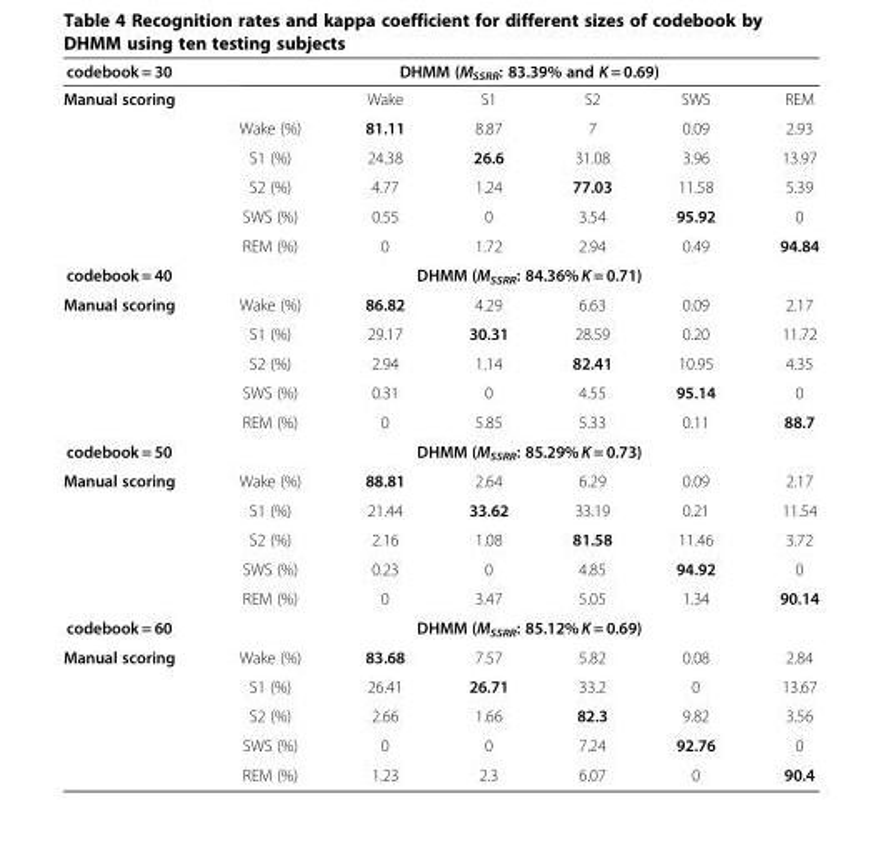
<table><thead><tr><td rowspan="2">codebook = 30 Manual scoring</td><td colspan="6">DHMM (M<sub>SSRR</sub>: 83.39% and K = 0.69)</td></tr><tr><td></td><td>Wake</td><td>S1</td><td>S2</td><td>SWS</td><td>REM</td></tr></thead><tbody><tr><td></td><td>Wake (%)</td><td>81.11</td><td>8.87</td><td>7</td><td>0.09</td><td>2.93</td></tr><tr><td></td><td>S1 (%)</td><td>24.38</td><td>26.6</td><td>31.08</td><td>3.96</td><td>13.97</td></tr><tr><td></td><td>S2 (%)</td><td>4.77</td><td>1.24</td><td>77.03</td><td>11.58</td><td>5.39</td></tr><tr><td></td><td>SWS (%)</td><td>0.55</td><td>0</td><td>3.54</td><td>95.92</td><td>0</td></tr><tr><td></td><td>REM (%)</td><td>0</td><td>1.72</td><td>2.94</td><td>0.49</td><td>94.84</td></tr><tr><td>codebook = 40</td><td colspan="6">DHMM (M<sub>SSRR</sub>: 84.36% K = 0.71)</td></tr><tr><td rowspan="5">Manual scoring</td><td>Wake (%)</td><td>86.82</td><td>4.29</td><td>6.63</td><td>0.09</td><td>2.17</td></tr><tr><td>S1 (%)</td><td>29.17</td><td>30.31</td><td>28.59</td><td>0.20</td><td>11.72</td></tr><tr><td>S2 (%)</td><td>2.94</td><td>1.14</td><td>82.41</td><td>10.95</td><td>4.35</td></tr><tr><td>SWS (%)</td><td>0.31</td><td>0</td><td>4.55</td><td>95.14</td><td>0</td></tr><tr><td>REM (%)</td><td>0</td><td>5.85</td><td>5.33</td><td>0.11</td><td>88.7</td></tr><tr><td>codebook = 50</td><td colspan="6">DHMM (M<sub>SSRR</sub>: 85.29% K = 0.73)</td></tr><tr><td rowspan="5">Manual scoring</td><td>Wake (%)</td><td>88.81</td><td>2.64</td><td>6.29</td><td>0.09</td><td>2.17</td></tr><tr><td>S1 (%)</td><td>21.44</td><td>33.62</td><td>33.19</td><td>0.21</td><td>11.54</td></tr><tr><td>S2 (%)</td><td>2.16</td><td>1.08</td><td>81.58</td><td>11.46</td><td>3.72</td></tr><tr><td>SWS (%)</td><td>0.23</td><td>0</td><td>4.85</td><td>94.92</td><td>0</td></tr><tr><td>REM (%)</td><td>0</td><td>3.47</td><td>5.05</td><td>1.34</td><td>90.14</td></tr><tr><td>codebook = 60</td><td colspan="6">DHMM (M<sub>SSRR</sub>: 85.12% K = 0.69)</td></tr><tr><td rowspan="5">Manual scoring</td><td>Wake (%)</td><td>83.68</td><td>7.57</td><td>5.82</td><td>0.08</td><td>2.84</td></tr><tr><td>S1 (%)</td><td>26.41</td><td>26.71</td><td>33.2</td><td>0</td><td>13.67</td></tr><tr><td>S2 (%)</td><td>2.66</td><td>1.66</td><td>82.3</td><td>9.82</td><td>3.56</td></tr><tr><td>SWS (%)</td><td>0</td><td>0</td><td>7.24</td><td>92.76</td><td>0</td></tr><tr><td>REM (%)</td><td>1.23</td><td>2.3</td><td>6.07</td><td>0</td><td>90.4</td></tr></tbody></table>